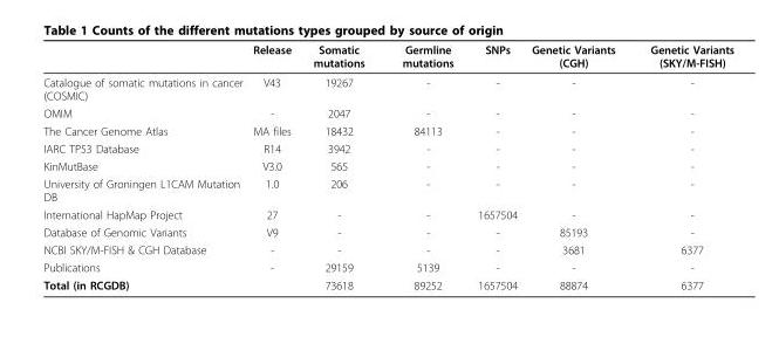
<table><thead><tr><td></td><td>Release</td><td>Somatic mutations</td><td>Germline mutations</td><td>SNPs</td><td>Genetic Variants (CGH)</td><td>Genetic Variants (SKY/M-FISH)</td></tr></thead><tbody><tr><td>Catalogue of somatic mutations in cancer (COSMIC)</td><td>V43</td><td>19267</td><td>-</td><td>-</td><td>-</td><td>-</td></tr><tr><td>OMIM</td><td>-</td><td>2047</td><td>-</td><td>-</td><td>-</td><td>-</td></tr><tr><td>The Cancer Genome Atlas</td><td>MA files</td><td>18432</td><td>84113</td><td>-</td><td>-</td><td>-</td></tr><tr><td>IARC TP53 Database</td><td>R14</td><td>3942</td><td>-</td><td>-</td><td>-</td><td>-</td></tr><tr><td>KinMutBase</td><td>V3.0</td><td>565</td><td>-</td><td>-</td><td>-</td><td>-</td></tr><tr><td>University of Groningen L1CAM Mutation DB</td><td>1.0</td><td>206</td><td>-</td><td>-</td><td>-</td><td>-</td></tr><tr><td>International HapMap Project</td><td>27</td><td>-</td><td>-</td><td>1657504</td><td>-</td><td>-</td></tr><tr><td>Database of Genomic Variants</td><td>V9</td><td>-</td><td>-</td><td>-</td><td>85193</td><td>-</td></tr><tr><td>NCBI SKY/M-FISH &amp; CGH Database</td><td>-</td><td>-</td><td>-</td><td>-</td><td>3681</td><td>6377</td></tr><tr><td>Publications</td><td>-</td><td>29159</td><td>5139</td><td>-</td><td>-</td><td>-</td></tr><tr><td>Total (in RCGDB)</td><td></td><td>73618</td><td>89252</td><td>1657504</td><td>88874</td><td>6377</td></tr></tbody></table>